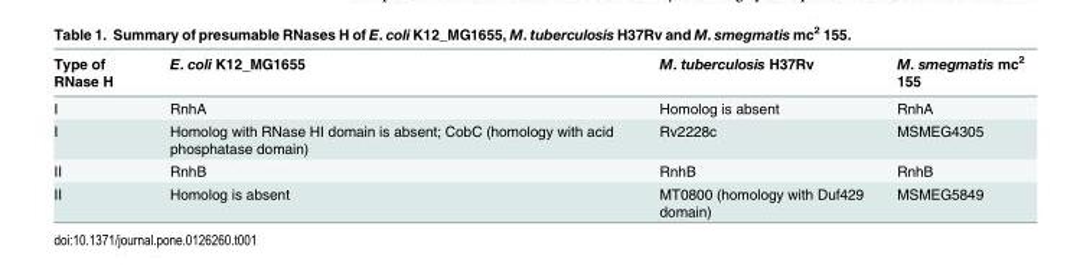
<table><thead><tr><td>Type of RNase H</td><td>E. coli K12_MG1655</td><td>M. tuberculosis H37Rv</td><td>M. smegmatis mc<sup>2</sup> 155</td></tr></thead><tbody><tr><td>I</td><td>RnhA</td><td>Homolog is absent</td><td>RnhA</td></tr><tr><td>I</td><td>Homolog with RNase HI domain is absent; CobC (homology with acid phosphatase domain)</td><td>Rv2228c</td><td>MSMEG4305</td></tr><tr><td>II</td><td>RnhB</td><td>RnhB</td><td>RnhB</td></tr><tr><td>II</td><td>Homolog is absent</td><td>MT0800 (homology with Duf429 domain)</td><td>MSMEG5849</td></tr></tbody></table>